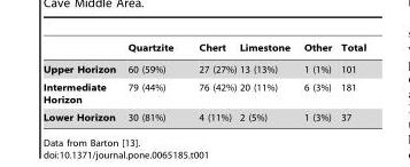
<table><thead><tr><td></td><td>Quartzite</td><td>Chert</td><td>Limestone</td><td>Other</td><td>Total</td></tr></thead><tbody><tr><td>Upper Horizon</td><td>60 (59%)</td><td>27 (27%)</td><td>13 (13%)</td><td>1 (1%)</td><td>101</td></tr><tr><td>Intermediate Horizon</td><td>79 (44%)</td><td>76 (42%)</td><td>20 (11%)</td><td>6 (3%)</td><td>181</td></tr><tr><td>Lower Horizon</td><td>30 (81%)</td><td>4 (11%)</td><td>2 (5%)</td><td>1 (3%)</td><td>37</td></tr></tbody></table>